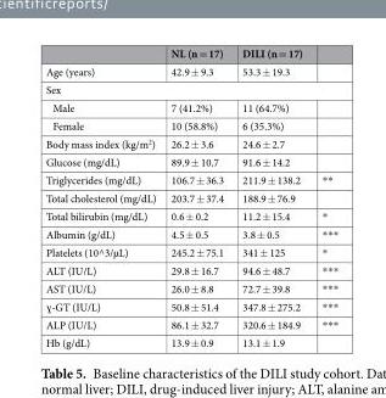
<table><thead><tr><td></td><td>NL (n = 17)</td><td>DILI (n = 17)</td><td></td></tr></thead><tbody><tr><td>Age (years)</td><td>42.9 ± 9.3</td><td>53.3 ± 19.3</td><td></td></tr><tr><td colspan="4">Sex</td></tr><tr><td>Male</td><td>7 (41.2%)</td><td>11 (64.7%)</td><td></td></tr><tr><td>Female</td><td>10 (58.8%)</td><td>6 (35.3%)</td><td></td></tr><tr><td>Body mass index (kg/m<sup>2</sup>)</td><td>26.2 ± 3.6</td><td>24.6 ± 2.7</td><td></td></tr><tr><td>Glucose (mg/dL)</td><td>89.9 ± 10.7</td><td>91.6 ± 14.2</td><td></td></tr><tr><td>Triglycerides (mg/dL)</td><td>106.7 ± 36.3</td><td>211.9 ± 138.2</td><td>**</td></tr><tr><td>Total cholesterol (mg/dL)</td><td>203.7 ± 37.4</td><td>188.9 ± 76.9</td><td></td></tr><tr><td>Total bilirubin (mg/dL)</td><td>0.6 ± 0.2</td><td>11.2 ± 15.4</td><td>*</td></tr><tr><td>Albumin (g/dL)</td><td>4.5 ± 0.5</td><td>3.8 ± 0.5</td><td>***</td></tr><tr><td>Platelets (10^3/µL)</td><td>245.2 ± 75.1</td><td>341 ± 125</td><td>*</td></tr><tr><td>ALT (IU/L)</td><td>29.8 ± 16.7</td><td>94.6 ± 48.7</td><td>***</td></tr><tr><td>AST (IU/L)</td><td>26.0 ± 8.8</td><td>72.7 ± 39.8</td><td>***</td></tr><tr><td>ɣ-GT (IU/L)</td><td>50.8 ± 51.4</td><td>347.8 ± 275.2</td><td>***</td></tr><tr><td>ALP (IU/L)</td><td>86.1 ± 32.7</td><td>320.6 ± 184.9</td><td>***</td></tr><tr><td>Hb (g/dL)</td><td>13.9 ± 0.9</td><td>13.1 ± 1.9</td><td></td></tr></tbody></table>